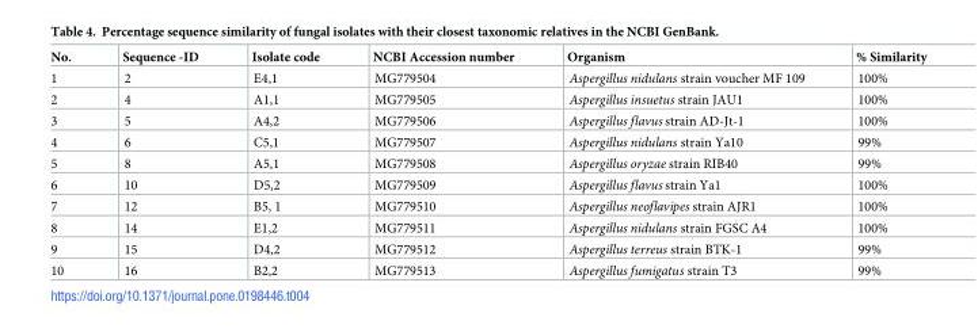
<table><thead><tr><td>No.</td><td>Sequence -ID</td><td>Isolate code</td><td>NCBI Accession number</td><td>Organism</td><td>% Similarity</td></tr></thead><tbody><tr><td>1</td><td>2</td><td>E4,1</td><td>MG779504</td><td>Aspergillus nidulans strain voucher MF 109</td><td>100%</td></tr><tr><td>2</td><td>4</td><td>A1,1</td><td>MG779505</td><td>Aspergillus insuetus strain JAU1</td><td>100%</td></tr><tr><td>3</td><td>5</td><td>A4,2</td><td>MG779506</td><td>Aspergillus flavus strain AD-Jt-1</td><td>100%</td></tr><tr><td>4</td><td>6</td><td>C5,1</td><td>MG779507</td><td>Aspergillus nidulans strain Ya10</td><td>99%</td></tr><tr><td>5</td><td>8</td><td>A5,1</td><td>MG779508</td><td>Aspergillus oryzae strain RIB40</td><td>99%</td></tr><tr><td>6</td><td>10</td><td>D5,2</td><td>MG779509</td><td>Aspergillus flavus strain Ya1</td><td>100%</td></tr><tr><td>7</td><td>12</td><td>B5, 1</td><td>MG779510</td><td>Aspergillus neoflavipes strain AJR1</td><td>100%</td></tr><tr><td>8</td><td>14</td><td>E1,2</td><td>MG779511</td><td>Aspergillus nidulans strain FGSC A4</td><td>100%</td></tr><tr><td>9</td><td>15</td><td>D4,2</td><td>MG779512</td><td>Aspergillus terreus strain BTK-1</td><td>99%</td></tr><tr><td>10</td><td>16</td><td>B2,2</td><td>MG779513</td><td>Aspergillus fumigatus strain T3</td><td>99%</td></tr></tbody></table>